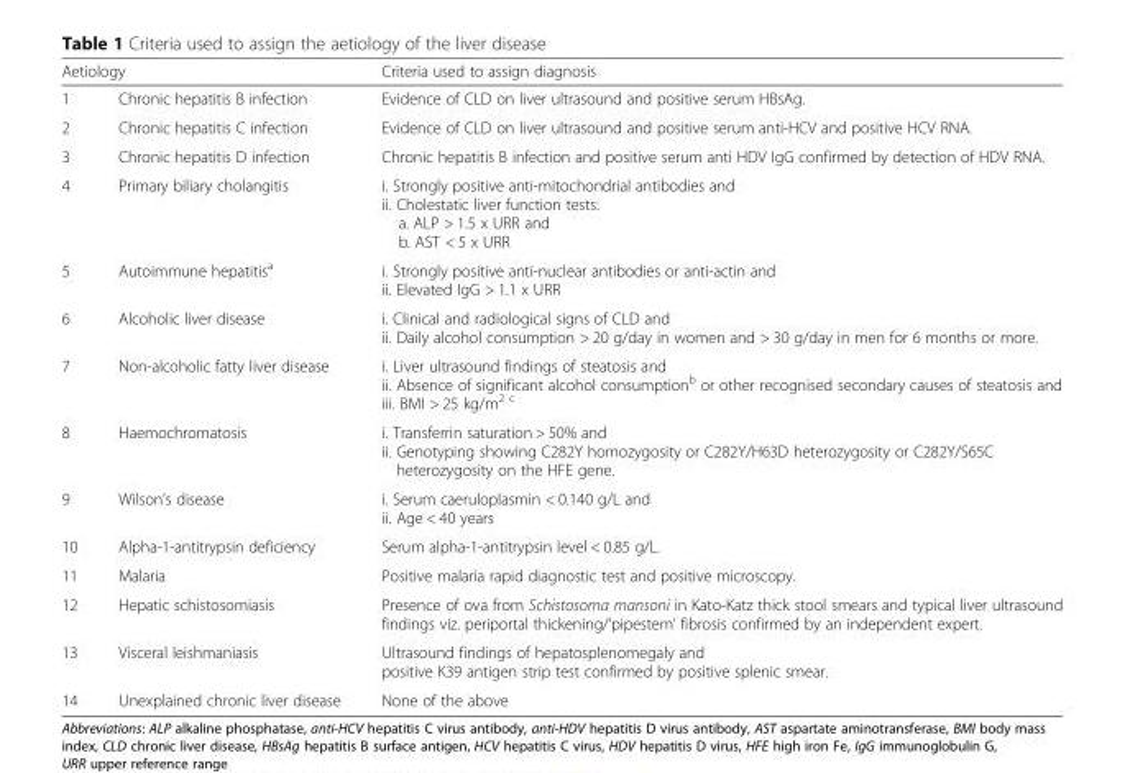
<table><thead><tr><td colspan="2">Aetiology</td><td rowspan="2">Criteria used to assign diagnosis Evidence of CLD on liver ultrasound and positive serum HBsAg.</td></tr><tr><td>1</td><td>Chronic hepatitis B infection</td></tr></thead><tbody><tr><td>2</td><td>Chronic hepatitis C infection</td><td>Evidence of CLD on liver ultrasound and positive serum anti-HCV and positive HCV RNA.</td></tr><tr><td>3</td><td>Chronic hepatitis D infection</td><td>Chronic hepatitis B infection and positive serum anti HDV IgG confirmed by detection of HDV RNA.</td></tr><tr><td>4</td><td>Primary biliary cholangitis</td><td>i. Strongly positive anti-mitochondrial antibodies and ii. Cholestatic liver function tests: a. ALP &gt; 1.5 x URR and b. AST &lt; 5 x URR</td></tr><tr><td>5</td><td>Autoimmune hepatitis<sup>a</sup></td><td>i. Strongly positive anti-nuclear antibodies or anti-actin and ii. Elevated IgG &gt; 1.1 x URR</td></tr><tr><td>6</td><td>Alcoholic liver disease</td><td>i. Clinical and radiological signs of CLD and ii. Daily alcohol consumption &gt; 20 g/day in women and &gt; 30 g/day in men for 6 months or more.</td></tr><tr><td>7</td><td>Non-alcoholic fatty liver disease</td><td>i. Liver ultrasound findings of steatosis and ii. Absence of significant alcohol consumption<sup>b</sup> or other recognised secondary causes of steatosis and iii. BMI &gt; 25 kg/m<sup>2 c</sup></td></tr><tr><td>8</td><td>Haemochromatosis</td><td>i. Transferrin saturation &gt; 50% and ii. Genotyping showing C282Y homozygosity or C282Y/H63D heterozygosity or C282Y/S65C heterozygosity on the HFE gene.</td></tr><tr><td>9</td><td>Wilson’s disease</td><td>i. Serum caeruloplasmin &lt; 0.140 g/L and ii. Age &lt; 40 years</td></tr><tr><td>10</td><td>Alpha-1-antitrypsin deficiency</td><td>Serum alpha-1-antitrypsin level &lt; 0.85 g/L.</td></tr><tr><td>11</td><td>Malaria</td><td>Positive malaria rapid diagnostic test and positive microscopy.</td></tr><tr><td>12</td><td>Hepatic schistosomiasis</td><td>Presence of ova from Schistosoma mansoni in Kato-Katz thick stool smears and typical liver ultrasound findings viz. periportal thickening/‘pipestem’ fibrosis confirmed by an independent expert.</td></tr><tr><td>13</td><td>Visceral leishmaniasis</td><td>Ultrasound findings of hepatosplenomegaly and positive K39 antigen strip test confirmed by positive splenic smear.</td></tr><tr><td>14</td><td>Unexplained chronic liver disease</td><td>None of the above</td></tr></tbody></table>